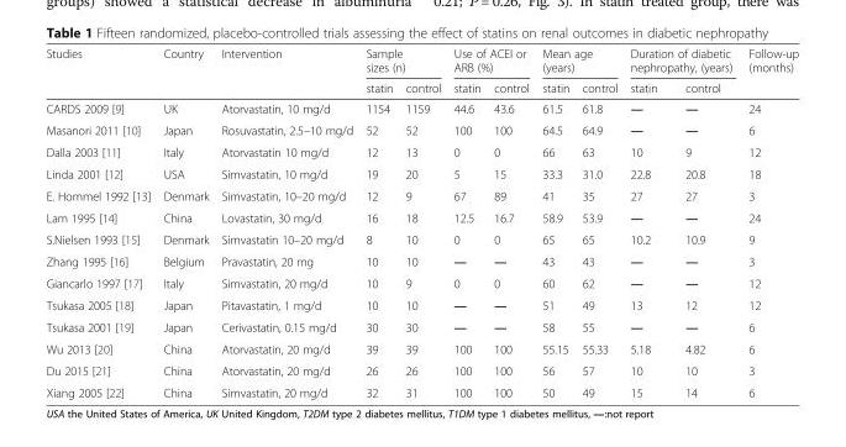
<table><thead><tr><td rowspan="2">Studies</td><td rowspan="2">Country</td><td rowspan="2">Intervention</td><td colspan="2">Sample sizes (n)</td><td colspan="2">Use of ACEI or ARB (%)</td><td colspan="2">Mean age (years)</td><td colspan="2">Duration of diabetic nephropathy, (years)</td><td rowspan="2">Follow-up (months)</td></tr><tr><td>statin</td><td>control</td><td>statin</td><td>control</td><td>statin</td><td>control</td><td>statin</td><td>control</td></tr></thead><tbody><tr><td>CARDS 2009 [9]</td><td>UK</td><td>Atorvastatin, 10 mg/d</td><td>1154</td><td>1159</td><td>44.6</td><td>43.6</td><td>61.5</td><td>61.8</td><td>—</td><td>—</td><td>24</td></tr><tr><td>Masanori 2011 [10]</td><td>Japan</td><td>Rosuvastatin, 2.5–10 mg/d</td><td>52</td><td>52</td><td>100</td><td>100</td><td>64.5</td><td>64.9</td><td>—</td><td>—</td><td>6</td></tr><tr><td>Dalla 2003 [11]</td><td>Italy</td><td>Atorvastatin 10 mg/d</td><td>12</td><td>13</td><td>0</td><td>0</td><td>66</td><td>63</td><td>10</td><td>9</td><td>12</td></tr><tr><td>Linda 2001 [12]</td><td>USA</td><td>Simvastatin, 10 mg/d</td><td>19</td><td>20</td><td>5</td><td>15</td><td>33.3</td><td>31.0</td><td>22.8</td><td>20.8</td><td>18</td></tr><tr><td>E. Hommel 1992 [13]</td><td>Denmark</td><td>Simvastatin, 10–20 mg/d</td><td>12</td><td>9</td><td>67</td><td>89</td><td>41</td><td>35</td><td>27</td><td>27</td><td>3</td></tr><tr><td>Lam 1995 [14]</td><td>China</td><td>Lovastatin, 30 mg/d</td><td>16</td><td>18</td><td>12.5</td><td>16.7</td><td>58.9</td><td>53.9</td><td>—</td><td>—</td><td>24</td></tr><tr><td>S.Nielsen 1993 [15]</td><td>Denmark</td><td>Simvastatin 10–20 mg/d</td><td>8</td><td>10</td><td>0</td><td>0</td><td>65</td><td>65</td><td>10.2</td><td>10.9</td><td>9</td></tr><tr><td>Zhang 1995 [16]</td><td>Belgium</td><td>Pravastatin, 20 mg</td><td>10</td><td>10</td><td>—</td><td>—</td><td>43</td><td>43</td><td>—</td><td>—</td><td>3</td></tr><tr><td>Giancarlo 1997 [17]</td><td>Italy</td><td>Simvastatin, 20 mg/d</td><td>10</td><td>9</td><td>0</td><td>0</td><td>60</td><td>62</td><td>—</td><td>—</td><td>12</td></tr><tr><td>Tsukasa 2005 [18]</td><td>Japan</td><td>Pitavastatin, 1 mg/d</td><td>10</td><td>10</td><td>—</td><td>—</td><td>51</td><td>49</td><td>13</td><td>12</td><td>12</td></tr><tr><td>Tsukasa 2001 [19]</td><td>Japan</td><td>Cerivastatin, 0.15 mg/d</td><td>30</td><td>30</td><td>—</td><td>—</td><td>58</td><td>55</td><td>—</td><td>—</td><td>6</td></tr><tr><td>Wu 2013 [20]</td><td>China</td><td>Atorvastatin, 20 mg/d</td><td>39</td><td>39</td><td>100</td><td>100</td><td>55.15</td><td>55.33</td><td>5.18</td><td>4.82</td><td>6</td></tr><tr><td>Du 2015 [21]</td><td>China</td><td>Atorvastatin, 20 mg/d</td><td>26</td><td>26</td><td>100</td><td>100</td><td>56</td><td>57</td><td>10</td><td>10</td><td>3</td></tr><tr><td>Xiang 2005 [22]</td><td>China</td><td>Simvastatin, 20 mg/d</td><td>32</td><td>31</td><td>100</td><td>100</td><td>50</td><td>49</td><td>15</td><td>14</td><td>6</td></tr></tbody></table>